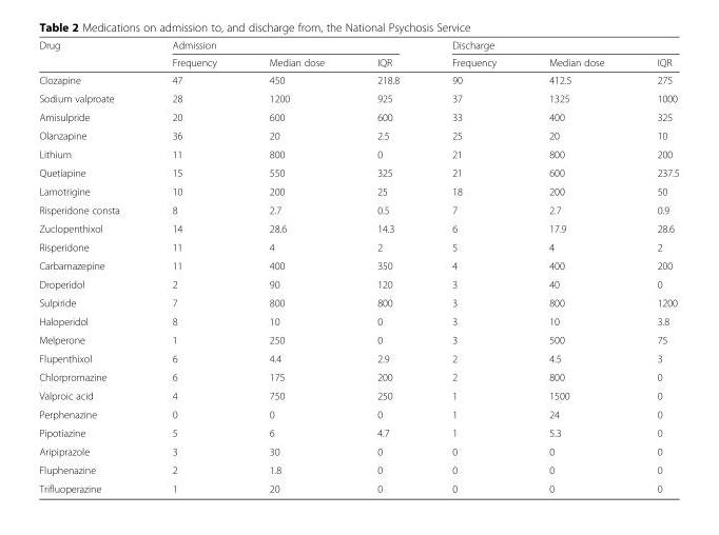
<table><thead><tr><td rowspan="2">Drug</td><td colspan="3">Admission</td><td colspan="3">Discharge</td></tr><tr><td>Frequency</td><td>Median dose</td><td>IQR</td><td>Frequency</td><td>Median dose</td><td>IQR</td></tr></thead><tbody><tr><td>Clozapine</td><td>47</td><td>450</td><td>218.8</td><td>90</td><td>412.5</td><td>275</td></tr><tr><td>Sodium valproate</td><td>28</td><td>1200</td><td>925</td><td>37</td><td>1325</td><td>1000</td></tr><tr><td>Amisulpride</td><td>20</td><td>600</td><td>600</td><td>33</td><td>400</td><td>325</td></tr><tr><td>Olanzapine</td><td>36</td><td>20</td><td>2.5</td><td>25</td><td>20</td><td>10</td></tr><tr><td>Lithium</td><td>11</td><td>800</td><td>0</td><td>21</td><td>800</td><td>200</td></tr><tr><td>Quetiapine</td><td>15</td><td>550</td><td>325</td><td>21</td><td>600</td><td>237.5</td></tr><tr><td>Lamotrigine</td><td>10</td><td>200</td><td>25</td><td>18</td><td>200</td><td>50</td></tr><tr><td>Risperidone consta</td><td>8</td><td>2.7</td><td>0.5</td><td>7</td><td>2.7</td><td>0.9</td></tr><tr><td>Zuclopenthixol</td><td>14</td><td>28.6</td><td>14.3</td><td>6</td><td>17.9</td><td>28.6</td></tr><tr><td>Risperidone</td><td>11</td><td>4</td><td>2</td><td>5</td><td>4</td><td>2</td></tr><tr><td>Carbamazepine</td><td>11</td><td>400</td><td>350</td><td>4</td><td>400</td><td>200</td></tr><tr><td>Droperidol</td><td>2</td><td>90</td><td>120</td><td>3</td><td>40</td><td>0</td></tr><tr><td>Sulpiride</td><td>7</td><td>800</td><td>800</td><td>3</td><td>800</td><td>1200</td></tr><tr><td>Haloperidol</td><td>8</td><td>10</td><td>0</td><td>3</td><td>10</td><td>3.8</td></tr><tr><td>Melperone</td><td>1</td><td>250</td><td>0</td><td>3</td><td>500</td><td>75</td></tr><tr><td>Flupenthixol</td><td>6</td><td>4.4</td><td>2.9</td><td>2</td><td>4.5</td><td>3</td></tr><tr><td>Chlorpromazine</td><td>6</td><td>175</td><td>200</td><td>2</td><td>800</td><td>0</td></tr><tr><td>Valproic acid</td><td>4</td><td>750</td><td>250</td><td>1</td><td>1500</td><td>0</td></tr><tr><td>Perphenazine</td><td>0</td><td>0</td><td>0</td><td>1</td><td>24</td><td>0</td></tr><tr><td>Pipotiazine</td><td>5</td><td>6</td><td>4.7</td><td>1</td><td>5.3</td><td>0</td></tr><tr><td>Aripiprazole</td><td>3</td><td>30</td><td>0</td><td>0</td><td>0</td><td>0</td></tr><tr><td>Fluphenazine</td><td>2</td><td>1.8</td><td>0</td><td>0</td><td>0</td><td>0</td></tr><tr><td>Trifluoperazine</td><td>1</td><td>20</td><td>0</td><td>0</td><td>0</td><td>0</td></tr></tbody></table>